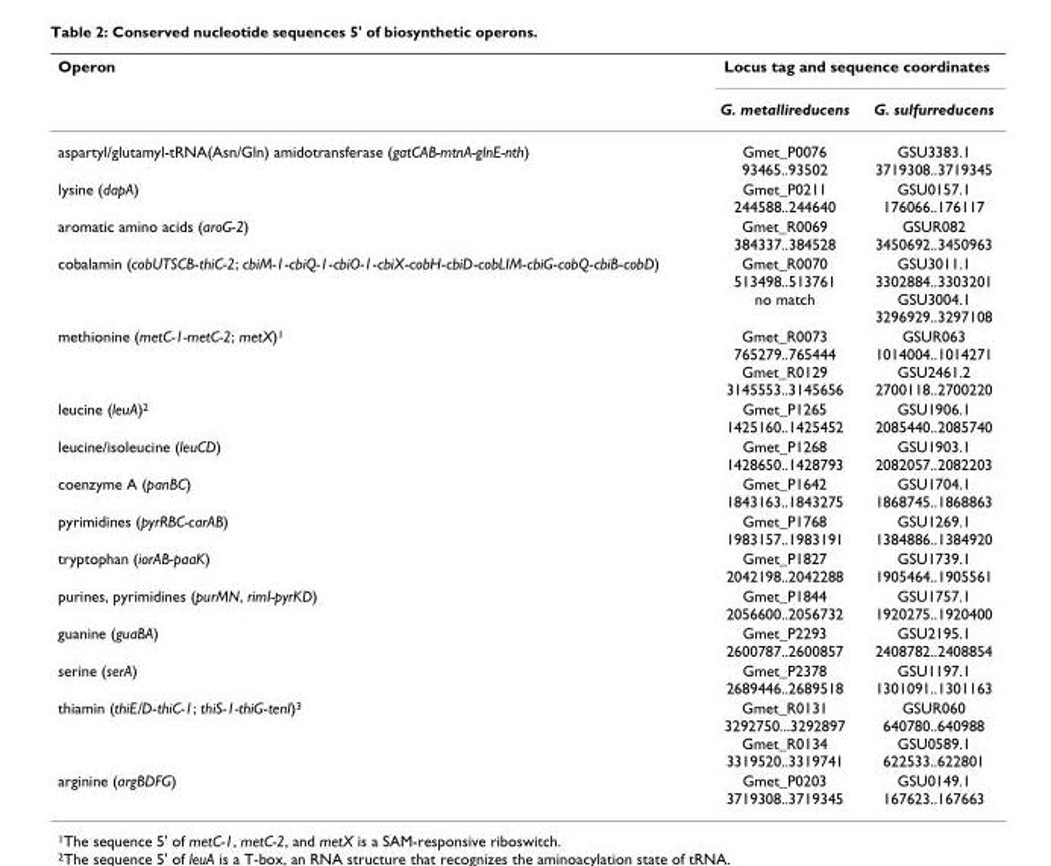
<table><thead><tr><td rowspan="2">Operon</td><td colspan="2">Locus tag and sequence coordinates</td></tr><tr><td>G. metallireducens</td><td>G. sulfurreducens</td></tr></thead><tbody><tr><td>aspartyl/glutamyl-tRNA(Asn/Gln) amidotransferase (gatCAB-mtnA-glnE-nth)</td><td>Gmet_P0076 93465..93502</td><td>GSU3383.1 3719308..3719345</td></tr><tr><td>lysine (dapA)</td><td>Gmet_P0211 244588..244640</td><td>GSU0157.1 176066..176117</td></tr><tr><td>aromatic amino acids (aroG-2)</td><td>Gmet_R0069 384337..384528</td><td>GSUR082 3450692..3450963</td></tr><tr><td>cobalamin (cobUTSCB-thiC-2; cbiM-1-cbiQ-1-cbiO-1-cbiX-cobH-cbiD-cobLIM-cbiG-cobQ-cbiB-cobD)</td><td>Gmet_R0070 513498..513761 no match</td><td>GSU3011.1 3302884..3303201 GSU3004.1 3296929..3297108</td></tr><tr><td>methionine (metC-1-metC-2; metX)<sup>1</sup></td><td>Gmet_R0073 765279..765444 Gmet_R0129 3145553..3145656</td><td>GSUR063 1014004..1014271 GSU2461.2 2700118..2700220</td></tr><tr><td>leucine (leuA)<sup>2</sup></td><td>Gmet_P1265 1425160..1425452</td><td>GSU1906.1 2085440..2085740</td></tr><tr><td>leucine/isoleucine (leuCD)</td><td>Gmet_P1268 1428650..1428793</td><td>GSU1903.1 2082057..2082203</td></tr><tr><td>coenzyme A (panBC)</td><td>Gmet_P1642 1843163..1843275</td><td>GSU1704.1 1868745..1868863</td></tr><tr><td>pyrimidines (pyrRBC-carAB)</td><td>Gmet_P1768 1983157..1983191</td><td>GSU1269.1 1384886..1384920</td></tr><tr><td>tryptophan (iorAB-paaK)</td><td>Gmet_P1827 2042198..2042288</td><td>GSU1739.1 1905464..1905561</td></tr><tr><td>purines, pyrimidines (purMN, rimI-pyrKD)</td><td>Gmet_P1844 2056600..2056732</td><td>GSU1757.1 1920275..1920400</td></tr><tr><td>guanine (guaBA)</td><td>Gmet_P2293 2600787..2600857</td><td>GSU2195.1 2408782..2408854</td></tr><tr><td>serine (serA)</td><td>Gmet_P2378 2689446..2689518</td><td>GSU1197.1 1301091..1301163</td></tr><tr><td>thiamin (thiE/D-thiC-1; thiS-1-thiG-tenI)<sup>3</sup></td><td>Gmet_R0131 3292750...3292897 Gmet_R0134 3319520..3319741</td><td>GSUR060 640780..640988 GSU0589.1 622533..622801</td></tr><tr><td>arginine (argBDFG)</td><td>Gmet_P0203 3719308..3719345</td><td>GSU0149.1 167623..167663</td></tr></tbody></table>